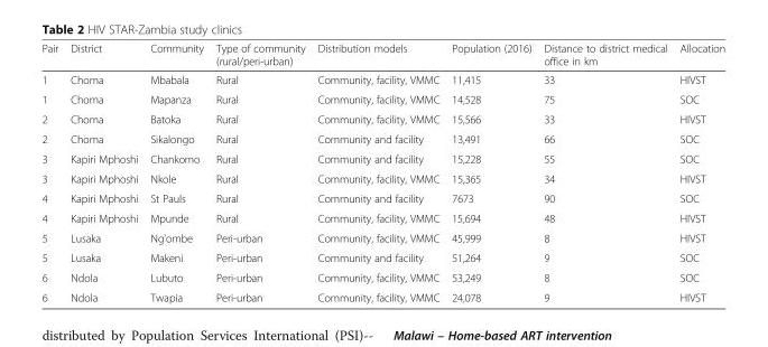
<table><thead><tr><td>Pair</td><td>District</td><td>Community</td><td>Type of community (rural/peri-urban)</td><td>Distribution models</td><td>Population (2016)</td><td>Distance to district medical office in km</td><td>Allocation</td></tr></thead><tbody><tr><td>1</td><td>Choma</td><td>Mbabala</td><td>Rural</td><td>Community, facility, VMMC</td><td>11,415</td><td>33</td><td>HIVST</td></tr><tr><td>1</td><td>Choma</td><td>Mapanza</td><td>Rural</td><td>Community, facility, VMMC</td><td>14,528</td><td>75</td><td>SOC</td></tr><tr><td>2</td><td>Choma</td><td>Batoka</td><td>Rural</td><td>Community, facility, VMMC</td><td>15,566</td><td>33</td><td>HIVST</td></tr><tr><td>2</td><td>Choma</td><td>Sikalongo</td><td>Rural</td><td>Community and facility</td><td>13,491</td><td>66</td><td>SOC</td></tr><tr><td>3</td><td>Kapiri Mphoshi</td><td>Chankomo</td><td>Rural</td><td>Community and facility</td><td>15,228</td><td>55</td><td>SOC</td></tr><tr><td>3</td><td>Kapiri Mphoshi</td><td>Nkole</td><td>Rural</td><td>Community, facility, VMMC</td><td>15,365</td><td>34</td><td>HIVST</td></tr><tr><td>4</td><td>Kapiri Mphoshi</td><td>St Pauls</td><td>Rural</td><td>Community and facility</td><td>7673</td><td>90</td><td>SOC</td></tr><tr><td>4</td><td>Kapiri Mphoshi</td><td>Mpunde</td><td>Rural</td><td>Community, facility, VMMC</td><td>15,694</td><td>48</td><td>HIVST</td></tr><tr><td>5</td><td>Lusaka</td><td>Ng’ombe</td><td>Peri-urban</td><td>Community, facility, VMMC</td><td>45,999</td><td>8</td><td>HIVST</td></tr><tr><td>5</td><td>Lusaka</td><td>Makeni</td><td>Peri-urban</td><td>Community and facility</td><td>51,264</td><td>9</td><td>SOC</td></tr><tr><td>6</td><td>Ndola</td><td>Lubuto</td><td>Peri-urban</td><td>Community, facility, VMMC</td><td>53,249</td><td>8</td><td>SOC</td></tr><tr><td>6</td><td>Ndola</td><td>Twapia</td><td>Peri-urban</td><td>Community, facility, VMMC</td><td>24,078</td><td>9</td><td>HIVST</td></tr></tbody></table>